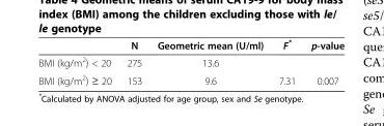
<table><thead><tr><td></td><td>N</td><td>Geometric mean (U/ml)</td><td>F*</td><td>p-value</td></tr></thead><tbody><tr><td>BMI (kg/m<sup>2</sup>) &lt; 20</td><td>275</td><td>13.6</td><td></td><td></td></tr><tr><td>BMI (kg/m<sup>2</sup>) ≥ 20</td><td>153</td><td>9.6</td><td>7.31</td><td>0.007</td></tr></tbody></table>